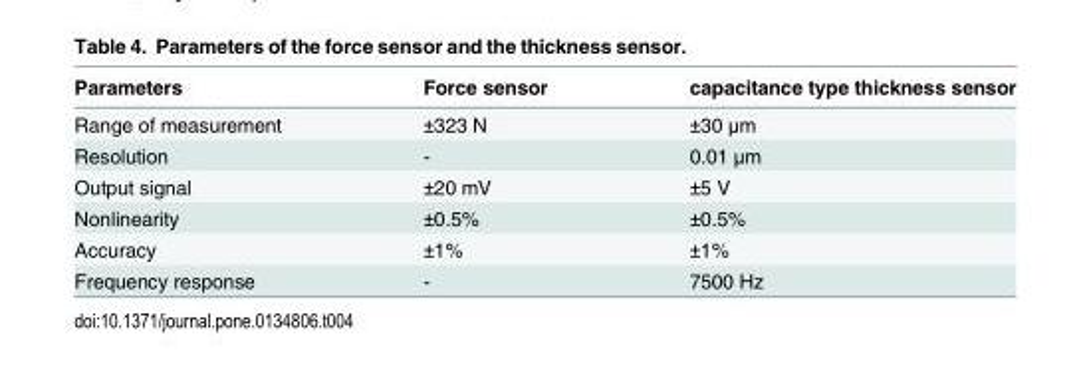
<table><thead><tr><td>Parameters</td><td>Force sensor</td><td>capacitance type thickness sensor</td></tr></thead><tbody><tr><td>Range of measurement</td><td>±323 N</td><td>±30 μm</td></tr><tr><td>Resolution</td><td>-</td><td>0.01 μm</td></tr><tr><td>Output signal</td><td>±20 mV</td><td>±5 V</td></tr><tr><td>Nonlinearity</td><td>±0.5%</td><td>±0.5%</td></tr><tr><td>Accuracy</td><td>±1%</td><td>±1%</td></tr><tr><td>Frequency response</td><td>-</td><td>7500 Hz</td></tr></tbody></table>